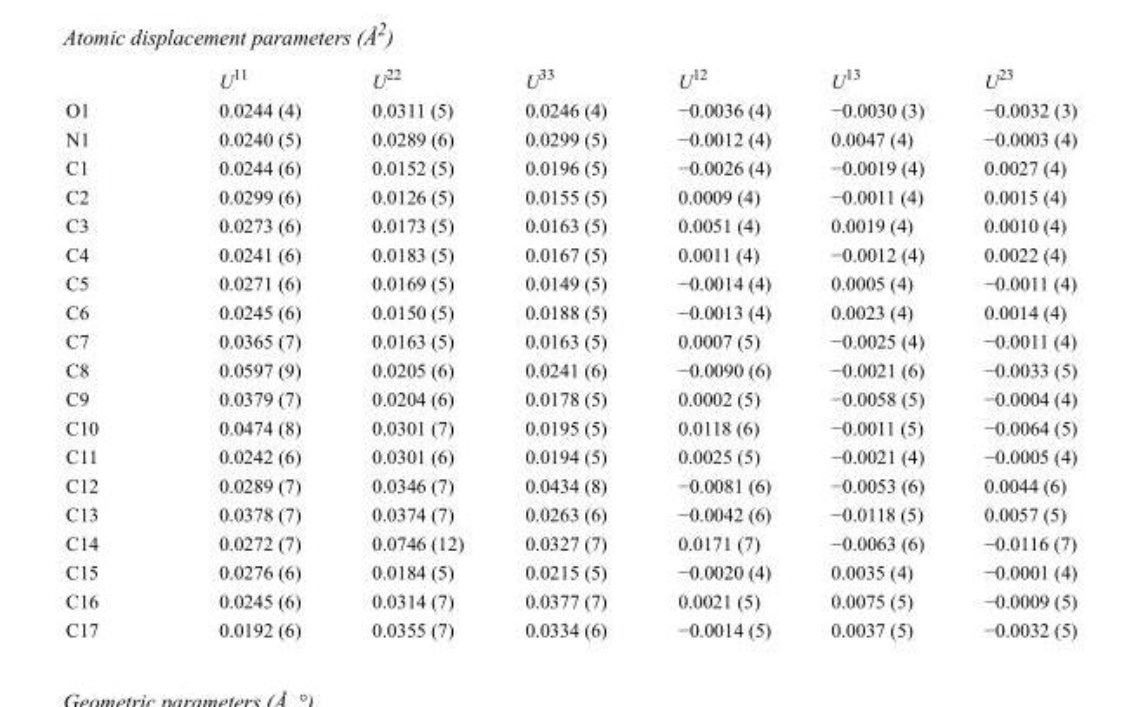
<table><thead><tr><td></td><td>U<sup>11</sup></td><td>U<sup>22</sup></td><td>U<sup>33</sup></td><td>U<sup>12</sup></td><td>U<sup>13</sup></td><td>U<sup>23</sup></td></tr></thead><tbody><tr><td>O1</td><td>0.0244 (4)</td><td>0.0311 (5)</td><td>0.0246 (4)</td><td>−0.0036 (4)</td><td>−0.0030 (3)</td><td>−0.0032 (3)</td></tr><tr><td>N1</td><td>0.0240 (5)</td><td>0.0289 (6)</td><td>0.0299 (5)</td><td>−0.0012 (4)</td><td>0.0047 (4)</td><td>−0.0003 (4)</td></tr><tr><td>C1</td><td>0.0244 (6)</td><td>0.0152 (5)</td><td>0.0196 (5)</td><td>−0.0026 (4)</td><td>−0.0019 (4)</td><td>0.0027 (4)</td></tr><tr><td>C2</td><td>0.0299 (6)</td><td>0.0126 (5)</td><td>0.0155 (5)</td><td>0.0009 (4)</td><td>−0.0011 (4)</td><td>0.0015 (4)</td></tr><tr><td>C3</td><td>0.0273 (6)</td><td>0.0173 (5)</td><td>0.0163 (5)</td><td>0.0051 (4)</td><td>0.0019 (4)</td><td>0.0010 (4)</td></tr><tr><td>C4</td><td>0.0241 (6)</td><td>0.0183 (5)</td><td>0.0167 (5)</td><td>0.0011 (4)</td><td>−0.0012 (4)</td><td>0.0022 (4)</td></tr><tr><td>C5</td><td>0.0271 (6)</td><td>0.0169 (5)</td><td>0.0149 (5)</td><td>−0.0014 (4)</td><td>0.0005 (4)</td><td>−0.0011 (4)</td></tr><tr><td>C6</td><td>0.0245 (6)</td><td>0.0150 (5)</td><td>0.0188 (5)</td><td>−0.0013 (4)</td><td>0.0023 (4)</td><td>0.0014 (4)</td></tr><tr><td>C7</td><td>0.0365 (7)</td><td>0.0163 (5)</td><td>0.0163 (5)</td><td>0.0007 (5)</td><td>−0.0025 (4)</td><td>−0.0011 (4)</td></tr><tr><td>C8</td><td>0.0597 (9)</td><td>0.0205 (6)</td><td>0.0241 (6)</td><td>−0.0090 (6)</td><td>−0.0021 (6)</td><td>−0.0033 (5)</td></tr><tr><td>C9</td><td>0.0379 (7)</td><td>0.0204 (6)</td><td>0.0178 (5)</td><td>0.0002 (5)</td><td>−0.0058 (5)</td><td>−0.0004 (4)</td></tr><tr><td>C10</td><td>0.0474 (8)</td><td>0.0301 (7)</td><td>0.0195 (5)</td><td>0.0118 (6)</td><td>−0.0011 (5)</td><td>−0.0064 (5)</td></tr><tr><td>C11</td><td>0.0242 (6)</td><td>0.0301 (6)</td><td>0.0194 (5)</td><td>0.0025 (5)</td><td>−0.0021 (4)</td><td>−0.0005 (4)</td></tr><tr><td>C12</td><td>0.0289 (7)</td><td>0.0346 (7)</td><td>0.0434 (8)</td><td>−0.0081 (6)</td><td>−0.0053 (6)</td><td>0.0044 (6)</td></tr><tr><td>C13</td><td>0.0378 (7)</td><td>0.0374 (7)</td><td>0.0263 (6)</td><td>−0.0042 (6)</td><td>−0.0118 (5)</td><td>0.0057 (5)</td></tr><tr><td>C14</td><td>0.0272 (7)</td><td>0.0746 (12)</td><td>0.0327 (7)</td><td>0.0171 (7)</td><td>−0.0063 (6)</td><td>−0.0116 (7)</td></tr><tr><td>C15</td><td>0.0276 (6)</td><td>0.0184 (5)</td><td>0.0215 (5)</td><td>−0.0020 (4)</td><td>0.0035 (4)</td><td>−0.0001 (4)</td></tr><tr><td>C16</td><td>0.0245 (6)</td><td>0.0314 (7)</td><td>0.0377 (7)</td><td>0.0021 (5)</td><td>0.0075 (5)</td><td>−0.0009 (5)</td></tr><tr><td>C17</td><td>0.0192 (6)</td><td>0.0355 (7)</td><td>0.0334 (6)</td><td>−0.0014 (5)</td><td>0.0037 (5)</td><td>−0.0032 (5)</td></tr></tbody></table>